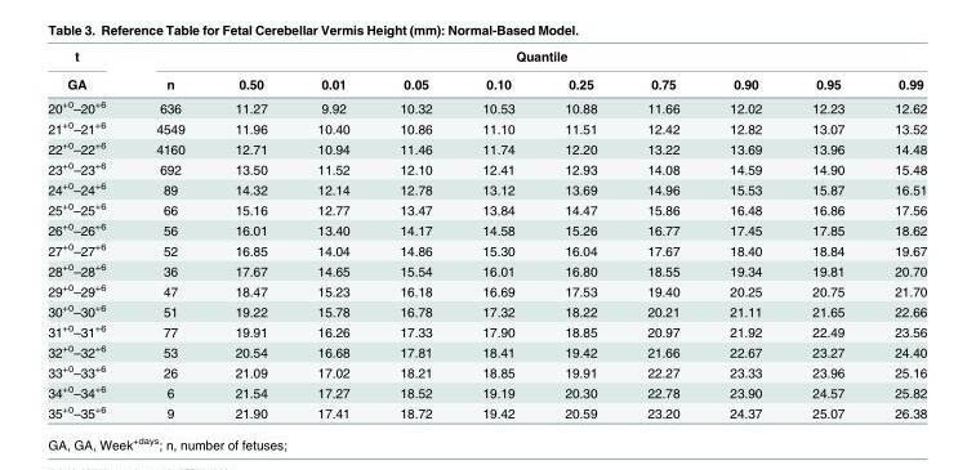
<table><thead><tr><td rowspan="2">t GA</td><td colspan="10">Quantile</td></tr><tr><td>n</td><td>0.50</td><td>0.01</td><td>0.05</td><td>0.10</td><td>0.25</td><td>0.75</td><td>0.90</td><td>0.95</td><td>0.99</td></tr></thead><tbody><tr><td>20<sup>+0</sup>–20<sup>+6</sup></td><td>636</td><td>11.27</td><td>9.92</td><td>10.32</td><td>10.53</td><td>10.88</td><td>11.66</td><td>12.02</td><td>12.23</td><td>12.62</td></tr><tr><td>21<sup>+0</sup>–21<sup>+6</sup></td><td>4549</td><td>11.96</td><td>10.40</td><td>10.86</td><td>11.10</td><td>11.51</td><td>12.42</td><td>12.82</td><td>13.07</td><td>13.52</td></tr><tr><td>22<sup>+0</sup>–22<sup>+6</sup></td><td>4160</td><td>12.71</td><td>10.94</td><td>11.46</td><td>11.74</td><td>12.20</td><td>13.22</td><td>13.69</td><td>13.96</td><td>14.48</td></tr><tr><td>23<sup>+0</sup>–23<sup>+6</sup></td><td>692</td><td>13.50</td><td>11.52</td><td>12.10</td><td>12.41</td><td>12.93</td><td>14.08</td><td>14.59</td><td>14.90</td><td>15.48</td></tr><tr><td>24<sup>+0</sup>–24<sup>+6</sup></td><td>89</td><td>14.32</td><td>12.14</td><td>12.78</td><td>13.12</td><td>13.69</td><td>14.96</td><td>15.53</td><td>15.87</td><td>16.51</td></tr><tr><td>25<sup>+0</sup>–25<sup>+6</sup></td><td>66</td><td>15.16</td><td>12.77</td><td>13.47</td><td>13.84</td><td>14.47</td><td>15.86</td><td>16.48</td><td>16.86</td><td>17.56</td></tr><tr><td>26<sup>+0</sup>–26<sup>+6</sup></td><td>56</td><td>16.01</td><td>13.40</td><td>14.17</td><td>14.58</td><td>15.26</td><td>16.77</td><td>17.45</td><td>17.85</td><td>18.62</td></tr><tr><td>27<sup>+0</sup>–27<sup>+6</sup></td><td>52</td><td>16.85</td><td>14.04</td><td>14.86</td><td>15.30</td><td>16.04</td><td>17.67</td><td>18.40</td><td>18.84</td><td>19.67</td></tr><tr><td>28<sup>+0</sup>–28<sup>+6</sup></td><td>36</td><td>17.67</td><td>14.65</td><td>15.54</td><td>16.01</td><td>16.80</td><td>18.55</td><td>19.34</td><td>19.81</td><td>20.70</td></tr><tr><td>29<sup>+0</sup>–29<sup>+6</sup></td><td>47</td><td>18.47</td><td>15.23</td><td>16.18</td><td>16.69</td><td>17.53</td><td>19.40</td><td>20.25</td><td>20.75</td><td>21.70</td></tr><tr><td>30<sup>+0</sup>–30<sup>+6</sup></td><td>51</td><td>19.22</td><td>15.78</td><td>16.78</td><td>17.32</td><td>18.22</td><td>20.21</td><td>21.11</td><td>21.65</td><td>22.66</td></tr><tr><td>31<sup>+0</sup>–31<sup>+6</sup></td><td>77</td><td>19.91</td><td>16.26</td><td>17.33</td><td>17.90</td><td>18.85</td><td>20.97</td><td>21.92</td><td>22.49</td><td>23.56</td></tr><tr><td>32<sup>+0</sup>–32<sup>+6</sup></td><td>53</td><td>20.54</td><td>16.68</td><td>17.81</td><td>18.41</td><td>19.42</td><td>21.66</td><td>22.67</td><td>23.27</td><td>24.40</td></tr><tr><td>33<sup>+0</sup>–33<sup>+6</sup></td><td>26</td><td>21.09</td><td>17.02</td><td>18.21</td><td>18.85</td><td>19.91</td><td>22.27</td><td>23.33</td><td>23.96</td><td>25.16</td></tr><tr><td>34<sup>+0</sup>–34<sup>+6</sup></td><td>6</td><td>21.54</td><td>17.27</td><td>18.52</td><td>19.19</td><td>20.30</td><td>22.78</td><td>23.90</td><td>24.57</td><td>25.82</td></tr><tr><td>35<sup>+0</sup>–35<sup>+6</sup></td><td>9</td><td>21.90</td><td>17.41</td><td>18.72</td><td>19.42</td><td>20.59</td><td>23.20</td><td>24.37</td><td>25.07</td><td>26.38</td></tr></tbody></table>